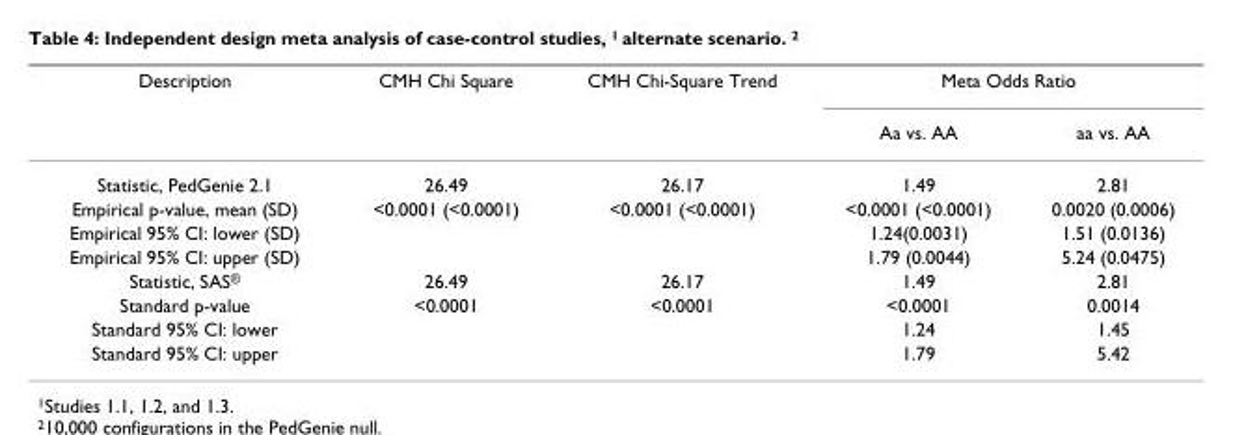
<table><thead><tr><td rowspan="2">Description</td><td rowspan="2">CMH Chi Square</td><td rowspan="2">CMH Chi-Square Trend</td><td colspan="2">Meta Odds Ratio</td></tr><tr><td>Aa vs. AA</td><td>aa vs. AA</td></tr></thead><tbody><tr><td>Statistic, PedGenie 2.1</td><td>26.49</td><td>26.17</td><td>1.49</td><td>2.81</td></tr><tr><td>Empirical p-value, mean (SD)</td><td>&lt;0.0001 (&lt;0.0001)</td><td>&lt;0.0001 (&lt;0.0001)</td><td>&lt;0.0001 (&lt;0.0001)</td><td>0.0020 (0.0006)</td></tr><tr><td>Empirical 95% CI: lower (SD)</td><td></td><td></td><td>1.24(0.0031)</td><td>1.51 (0.0136)</td></tr><tr><td>Empirical 95% CI: upper (SD)</td><td></td><td></td><td>1.79 (0.0044)</td><td>5.24 (0.0475)</td></tr><tr><td>Statistic, SAS<sup>®</sup></td><td>26.49</td><td>26.17</td><td>1.49</td><td>2.81</td></tr><tr><td>Standard p-value</td><td>&lt;0.0001</td><td>&lt;0.0001</td><td>&lt;0.0001</td><td>0.0014</td></tr><tr><td>Standard 95% CI: lower</td><td></td><td></td><td>1.24</td><td>1.45</td></tr><tr><td>Standard 95% CI: upper</td><td></td><td></td><td>1.79</td><td>5.42</td></tr></tbody></table>